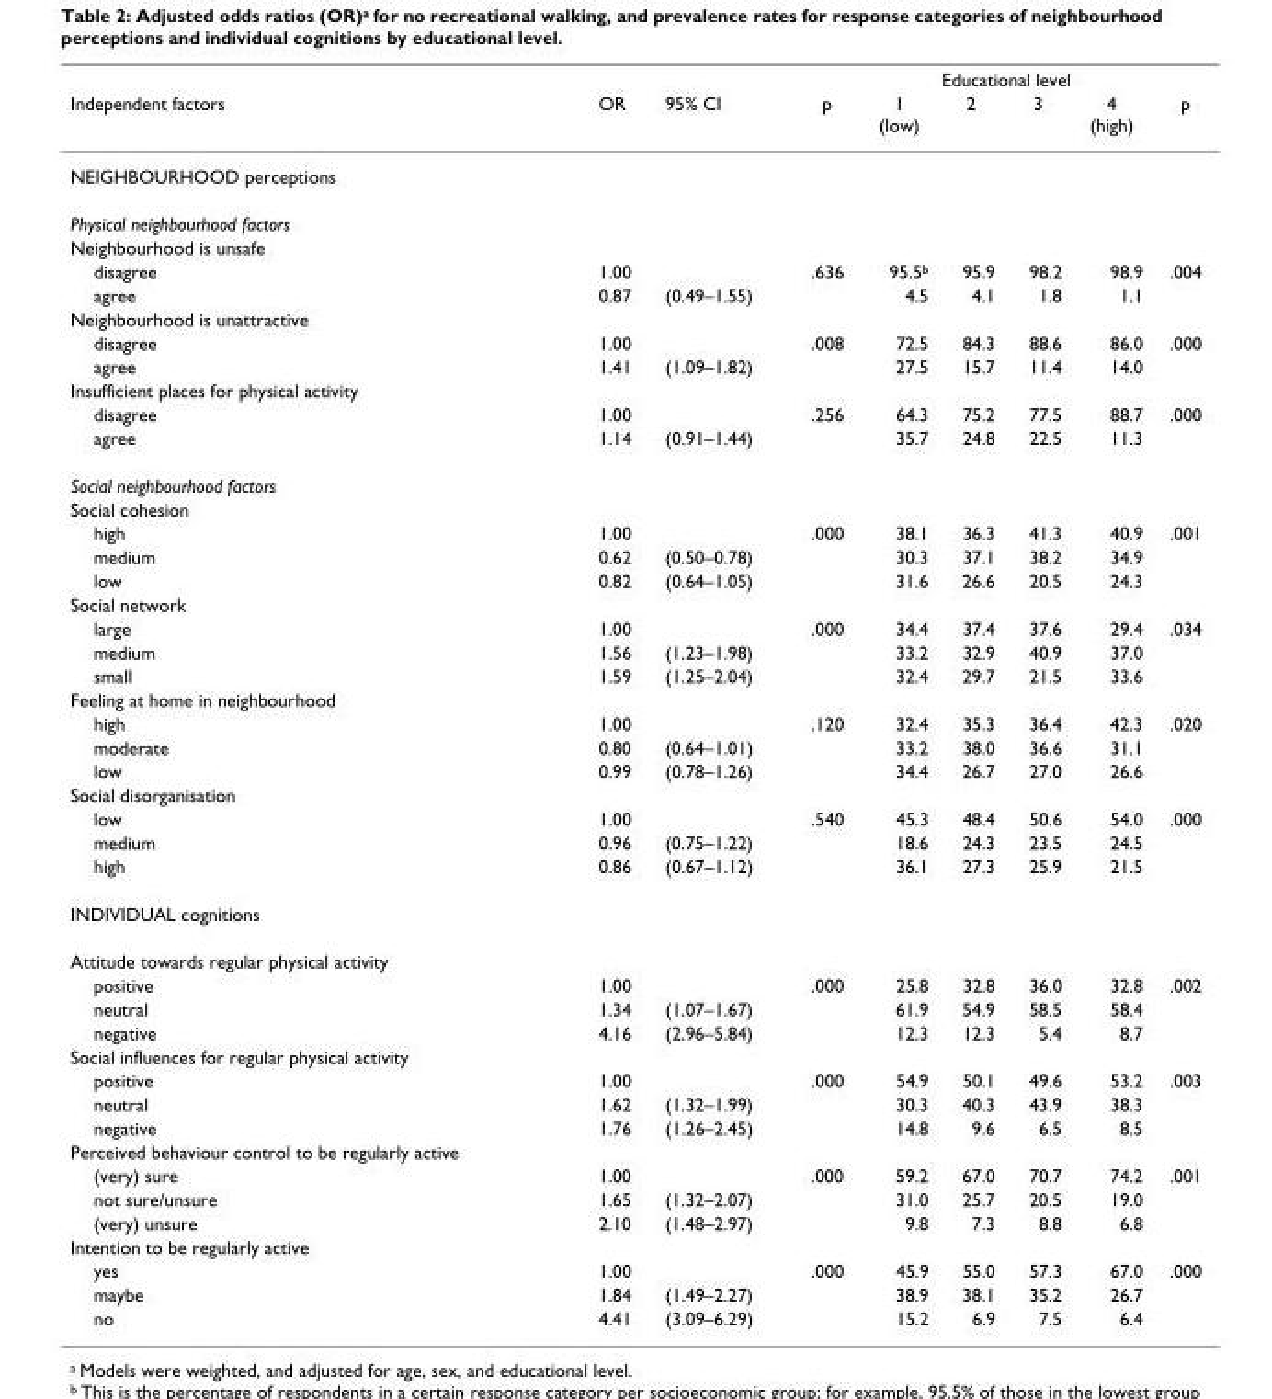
<table><thead><tr><td rowspan="2">Independent factors</td><td rowspan="2">OR</td><td rowspan="2">95% CI</td><td rowspan="2">p</td><td colspan="4">Educational level</td><td rowspan="2">p</td></tr><tr><td>1 (low)</td><td>2</td><td>3</td><td>4 (high)</td></tr></thead><tbody><tr><td colspan="9">NEIGHBOURHOOD perceptions</td></tr><tr><td colspan="9">Physical neighbourhood factors</td></tr><tr><td colspan="9">Neighbourhood is unsafe</td></tr><tr><td>disagree</td><td>1.00</td><td></td><td>.636</td><td>95.5<sup>b</sup></td><td>95.9</td><td>98.2</td><td>98.9</td><td>.004</td></tr><tr><td>agree</td><td>0.87</td><td>(0.49–1.55)</td><td></td><td>4.5</td><td>4.1</td><td>1.8</td><td>1.1</td><td></td></tr><tr><td colspan="9">Neighbourhood is unattractive</td></tr><tr><td>disagree</td><td>1.00</td><td></td><td>.008</td><td>72.5</td><td>84.3</td><td>88.6</td><td>86.0</td><td>.000</td></tr><tr><td>agree</td><td>1.41</td><td>(1.09–1.82)</td><td></td><td>27.5</td><td>15.7</td><td>11.4</td><td>14.0</td><td></td></tr><tr><td colspan="9">Insufficient places for physical activity</td></tr><tr><td>disagree</td><td>1.00</td><td></td><td>.256</td><td>64.3</td><td>75.2</td><td>77.5</td><td>88.7</td><td>.000</td></tr><tr><td>agree</td><td>1.14</td><td>(0.91–1.44)</td><td></td><td>35.7</td><td>24.8</td><td>22.5</td><td>11.3</td><td></td></tr><tr><td colspan="9">Social neighbourhood factors</td></tr><tr><td colspan="9">Social cohesion</td></tr><tr><td>high</td><td>1.00</td><td></td><td>.000</td><td>38.1</td><td>36.3</td><td>41.3</td><td>40.9</td><td>.001</td></tr><tr><td>medium</td><td>0.62</td><td>(0.50–0.78)</td><td></td><td>30.3</td><td>37.1</td><td>38.2</td><td>34.9</td><td></td></tr><tr><td>low</td><td>0.82</td><td>(0.64–1.05)</td><td></td><td>31.6</td><td>26.6</td><td>20.5</td><td>24.3</td><td></td></tr><tr><td colspan="9">Social network</td></tr><tr><td>large</td><td>1.00</td><td></td><td>.000</td><td>34.4</td><td>37.4</td><td>37.6</td><td>29.4</td><td>.034</td></tr><tr><td>medium</td><td>1.56</td><td>(1.23–1.98)</td><td></td><td>33.2</td><td>32.9</td><td>40.9</td><td>37.0</td><td></td></tr><tr><td>small</td><td>1.59</td><td>(1.25–2.04)</td><td></td><td>32.4</td><td>29.7</td><td>21.5</td><td>33.6</td><td></td></tr><tr><td colspan="9">Feeling at home in neighbourhood</td></tr><tr><td>high</td><td>1.00</td><td></td><td>.120</td><td>32.4</td><td>35.3</td><td>36.4</td><td>42.3</td><td>.020</td></tr><tr><td>moderate</td><td>0.80</td><td>(0.64–1.01)</td><td></td><td>33.2</td><td>38.0</td><td>36.6</td><td>31.1</td><td></td></tr><tr><td>low</td><td>0.99</td><td>(0.78–1.26)</td><td></td><td>34.4</td><td>26.7</td><td>27.0</td><td>26.6</td><td></td></tr><tr><td colspan="9">Social disorganisation</td></tr><tr><td>low</td><td>1.00</td><td></td><td>.540</td><td>45.3</td><td>48.4</td><td>50.6</td><td>54.0</td><td>.000</td></tr><tr><td>medium</td><td>0.96</td><td>(0.75–1.22)</td><td></td><td>18.6</td><td>24.3</td><td>23.5</td><td>24.5</td><td></td></tr><tr><td>high</td><td>0.86</td><td>(0.67–1.12)</td><td></td><td>36.1</td><td>27.3</td><td>25.9</td><td>21.5</td><td></td></tr><tr><td colspan="9">INDIVIDUAL cognitions</td></tr><tr><td colspan="9">Attitude towards regular physical activity</td></tr><tr><td>positive</td><td>1.00</td><td></td><td>.000</td><td>25.8</td><td>32.8</td><td>36.0</td><td>32.8</td><td>.002</td></tr><tr><td>neutral</td><td>1.34</td><td>(1.07–1.67)</td><td></td><td>61.9</td><td>54.9</td><td>58.5</td><td>58.4</td><td></td></tr><tr><td>negative</td><td>4.16</td><td>(2.96–5.84)</td><td></td><td>12.3</td><td>12.3</td><td>5.4</td><td>8.7</td><td></td></tr><tr><td colspan="9">Social influences for regular physical activity</td></tr><tr><td>positive</td><td>1.00</td><td></td><td>.000</td><td>54.9</td><td>50.1</td><td>49.6</td><td>53.2</td><td>.003</td></tr><tr><td>neutral</td><td>1.62</td><td>(1.32–1.99)</td><td></td><td>30.3</td><td>40.3</td><td>43.9</td><td>38.3</td><td></td></tr><tr><td>negative</td><td>1.76</td><td>(1.26–2.45)</td><td></td><td>14.8</td><td>9.6</td><td>6.5</td><td>8.5</td><td></td></tr><tr><td colspan="9">Perceived behaviour control to be regularly active</td></tr><tr><td>(very) sure</td><td>1.00</td><td></td><td>.000</td><td>59.2</td><td>67.0</td><td>70.7</td><td>74.2</td><td>.001</td></tr><tr><td>not sure/unsure</td><td>1.65</td><td>(1.32–2.07)</td><td></td><td>31.0</td><td>25.7</td><td>20.5</td><td>19.0</td><td></td></tr><tr><td>(very) unsure</td><td>2.10</td><td>(1.48–2.97)</td><td></td><td>9.8</td><td>7.3</td><td>8.8</td><td>6.8</td><td></td></tr><tr><td colspan="9">Intention to be regularly active</td></tr><tr><td>yes</td><td>1.00</td><td></td><td>.000</td><td>45.9</td><td>55.0</td><td>57.3</td><td>67.0</td><td>.000</td></tr><tr><td>maybe</td><td>1.84</td><td>(1.49–2.27)</td><td></td><td>38.9</td><td>38.1</td><td>35.2</td><td>26.7</td><td></td></tr><tr><td>no</td><td>4.41</td><td>(3.09–6.29)</td><td></td><td>15.2</td><td>6.9</td><td>7.5</td><td>6.4</td><td></td></tr></tbody></table>